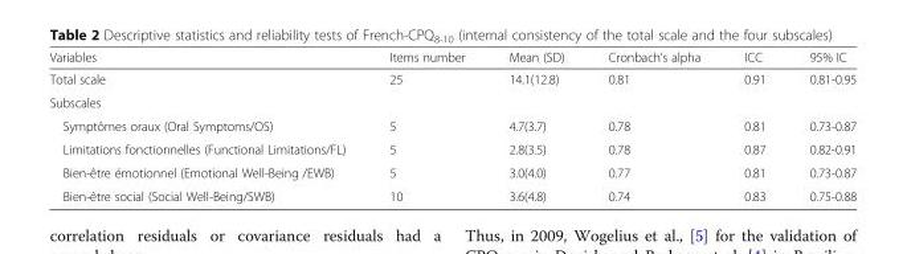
<table><thead><tr><td>Variables</td><td>Items number</td><td>Mean (SD)</td><td>Cronbach’s alpha</td><td>ICC</td><td>95% IC</td></tr></thead><tbody><tr><td>Total scale</td><td>25</td><td>14.1(12.8)</td><td>0.81</td><td>0.91</td><td>0.81-0.95</td></tr><tr><td colspan="6">Subscales</td></tr><tr><td>Symptômes oraux (Oral Symptoms/OS)</td><td>5</td><td>4.7(3.7)</td><td>0.78</td><td>0.81</td><td>0.73-0.87</td></tr><tr><td>Limitations fonctionnelles (Functional Limitations/FL)</td><td>5</td><td>2.8(3.5)</td><td>0.78</td><td>0.87</td><td>0.82-0.91</td></tr><tr><td>Bien-être émotionnel (Emotional Well-Being /EWB)</td><td>5</td><td>3.0(4.0)</td><td>0.77</td><td>0.81</td><td>0.73-0.87</td></tr><tr><td>Bien-être social (Social Well-Being/SWB)</td><td>10</td><td>3.6(4.8)</td><td>0.74</td><td>0.83</td><td>0.75-0.88</td></tr></tbody></table>